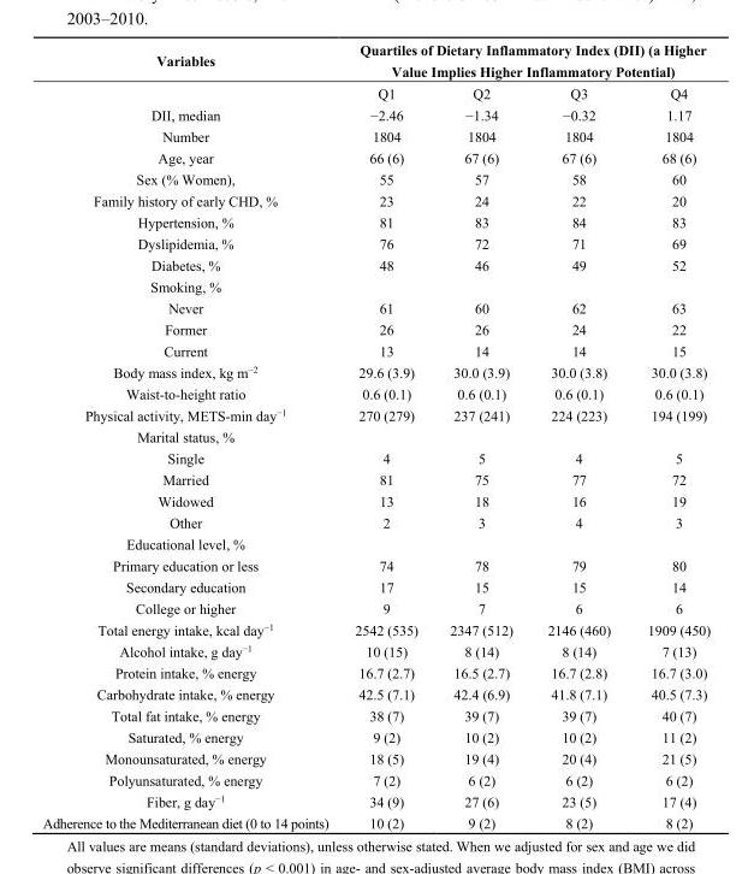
<table><thead><tr><td rowspan="2">Variables</td><td colspan="4">Quartiles of Dietary Inflammatory Index (DII) (a Higher Value Implies Higher Inflammatory Potential)</td></tr><tr><td>Q1</td><td>Q2</td><td>Q3</td><td>Q4</td></tr></thead><tbody><tr><td>DII, median</td><td>−2.46</td><td>−1.34</td><td>−0.32</td><td>1.17</td></tr><tr><td>Number</td><td>1804</td><td>1804</td><td>1804</td><td>1804</td></tr><tr><td>Age, year</td><td>66 (6)</td><td>67 (6)</td><td>67 (6)</td><td>68 (6)</td></tr><tr><td>Sex (% Women),</td><td>55</td><td>57</td><td>58</td><td>60</td></tr><tr><td>Family history of early CHD, %</td><td>23</td><td>24</td><td>22</td><td>20</td></tr><tr><td>Hypertension, %</td><td>81</td><td>83</td><td>84</td><td>83</td></tr><tr><td>Dyslipidemia, %</td><td>76</td><td>72</td><td>71</td><td>69</td></tr><tr><td>Diabetes, %</td><td>48</td><td>46</td><td>49</td><td>52</td></tr><tr><td colspan="5">Smoking, %</td></tr><tr><td>Never</td><td>61</td><td>60</td><td>62</td><td>63</td></tr><tr><td>Former</td><td>26</td><td>26</td><td>24</td><td>22</td></tr><tr><td>Current</td><td>13</td><td>14</td><td>14</td><td>15</td></tr><tr><td>Body mass index, kg m<sup>−2</sup></td><td>29.6 (3.9)</td><td>30.0 (3.9)</td><td>30.0 (3.8)</td><td>30.0 (3.8)</td></tr><tr><td>Waist-to-height ratio</td><td>0.6 (0.1)</td><td>0.6 (0.1)</td><td>0.6 (0.1)</td><td>0.6 (0.1)</td></tr><tr><td>Physical activity, METS-min day<sup>−1</sup></td><td>270 (279)</td><td>237 (241)</td><td>224 (223)</td><td>194 (199)</td></tr><tr><td colspan="5">Marital status, %</td></tr><tr><td>Single</td><td>4</td><td>5</td><td>4</td><td>5</td></tr><tr><td>Married</td><td>81</td><td>75</td><td>77</td><td>72</td></tr><tr><td>Widowed</td><td>13</td><td>18</td><td>16</td><td>19</td></tr><tr><td>Other</td><td>2</td><td>3</td><td>4</td><td>3</td></tr><tr><td colspan="5">Educational level, %</td></tr><tr><td>Primary education or less</td><td>74</td><td>78</td><td>79</td><td>80</td></tr><tr><td>Secondary education</td><td>17</td><td>15</td><td>15</td><td>14</td></tr><tr><td>College or higher</td><td>9</td><td>7</td><td>6</td><td>6</td></tr><tr><td>Total energy intake, kcal day<sup>−1</sup></td><td>2542 (535)</td><td>2347 (512)</td><td>2146 (460)</td><td>1909 (450)</td></tr><tr><td>Alcohol intake, g day<sup>−1</sup></td><td>10 (15)</td><td>8 (14)</td><td>8 (14)</td><td>7 (13)</td></tr><tr><td>Protein intake, % energy</td><td>16.7 (2.7)</td><td>16.5 (2.7)</td><td>16.7 (2.8)</td><td>16.7 (3.0)</td></tr><tr><td>Carbohydrate intake, % energy</td><td>42.5 (7.1)</td><td>42.4 (6.9)</td><td>41.8 (7.1)</td><td>40.5 (7.3)</td></tr><tr><td>Total fat intake, % energy</td><td>38 (7)</td><td>39 (7)</td><td>39 (7)</td><td>40 (7)</td></tr><tr><td>Saturated, % energy</td><td>9 (2)</td><td>10 (2)</td><td>10 (2)</td><td>11 (2)</td></tr><tr><td>Monounsaturated, % energy</td><td>18 (5)</td><td>19 (4)</td><td>20 (4)</td><td>21 (5)</td></tr><tr><td>Polyunsaturated, % energy</td><td>7 (2)</td><td>6 (2)</td><td>6 (2)</td><td>6 (2)</td></tr><tr><td>Fiber, g day<sup>−1</sup></td><td>34 (9)</td><td>27 (6)</td><td>23 (5)</td><td>17 (4)</td></tr><tr><td>Adherence to the Mediterranean diet (0 to 14 points)</td><td>10 (2)</td><td>9 (2)</td><td>8 (2)</td><td>8 (2)</td></tr></tbody></table>